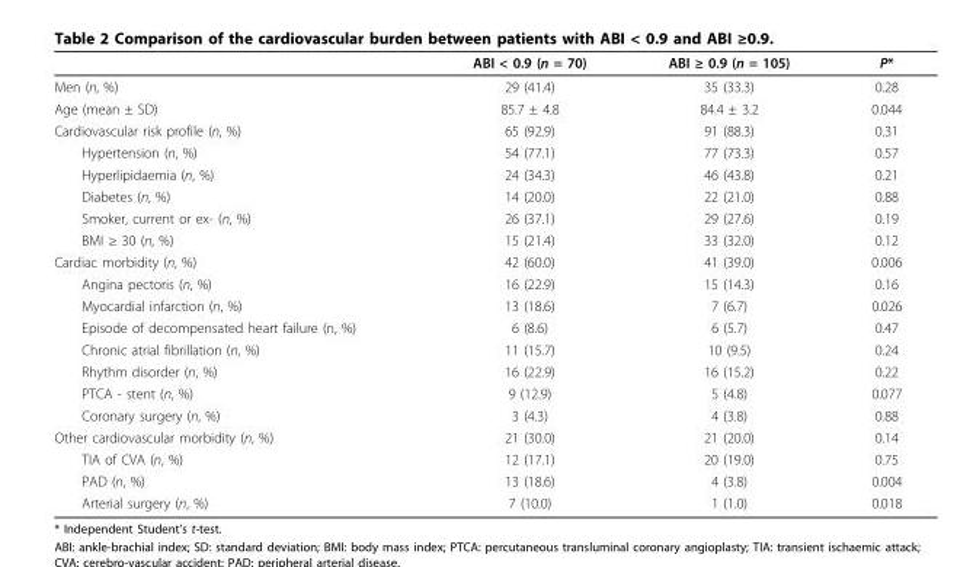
<table><thead><tr><td></td><td>ABI &lt; 0.9 (n = 70)</td><td>ABI ≥ 0.9 (n = 105)</td><td>P*</td></tr></thead><tbody><tr><td>Men (n, %)</td><td>29 (41.4)</td><td>35 (33.3)</td><td>0.28</td></tr><tr><td>Age (mean ± SD)</td><td>85.7 ± 4.8</td><td>84.4 ± 3.2</td><td>0.044</td></tr><tr><td>Cardiovascular risk profile (n, %)</td><td>65 (92.9)</td><td>91 (88.3)</td><td>0.31</td></tr><tr><td>Hypertension (n, %)</td><td>54 (77.1)</td><td>77 (73.3)</td><td>0.57</td></tr><tr><td>Hyperlipidaemia (n, %)</td><td>24 (34.3)</td><td>46 (43.8)</td><td>0.21</td></tr><tr><td>Diabetes (n, %)</td><td>14 (20.0)</td><td>22 (21.0)</td><td>0.88</td></tr><tr><td>Smoker, current or ex- (n, %)</td><td>26 (37.1)</td><td>29 (27.6)</td><td>0.19</td></tr><tr><td>BMI ≥ 30 (n, %)</td><td>15 (21.4)</td><td>33 (32.0)</td><td>0.12</td></tr><tr><td>Cardiac morbidity (n, %)</td><td>42 (60.0)</td><td>41 (39.0)</td><td>0.006</td></tr><tr><td>Angina pectoris (n, %)</td><td>16 (22.9)</td><td>15 (14.3)</td><td>0.16</td></tr><tr><td>Myocardial infarction (n, %)</td><td>13 (18.6)</td><td>7 (6.7)</td><td>0.026</td></tr><tr><td>Episode of decompensated heart failure (n, %)</td><td>6 (8.6)</td><td>6 (5.7)</td><td>0.47</td></tr><tr><td>Chronic atrial fibrillation (n, %)</td><td>11 (15.7)</td><td>10 (9.5)</td><td>0.24</td></tr><tr><td>Rhythm disorder (n, %)</td><td>16 (22.9)</td><td>16 (15.2)</td><td>0.22</td></tr><tr><td>PTCA - stent (n, %)</td><td>9 (12.9)</td><td>5 (4.8)</td><td>0.077</td></tr><tr><td>Coronary surgery (n, %)</td><td>3 (4.3)</td><td>4 (3.8)</td><td>0.88</td></tr><tr><td>Other cardiovascular morbidity (n, %)</td><td>21 (30.0)</td><td>21 (20.0)</td><td>0.14</td></tr><tr><td>TIA of CVA (n, %)</td><td>12 (17.1)</td><td>20 (19.0)</td><td>0.75</td></tr><tr><td>PAD (n, %)</td><td>13 (18.6)</td><td>4 (3.8)</td><td>0.004</td></tr><tr><td>Arterial surgery (n, %)</td><td>7 (10.0)</td><td>1 (1.0)</td><td>0.018</td></tr></tbody></table>